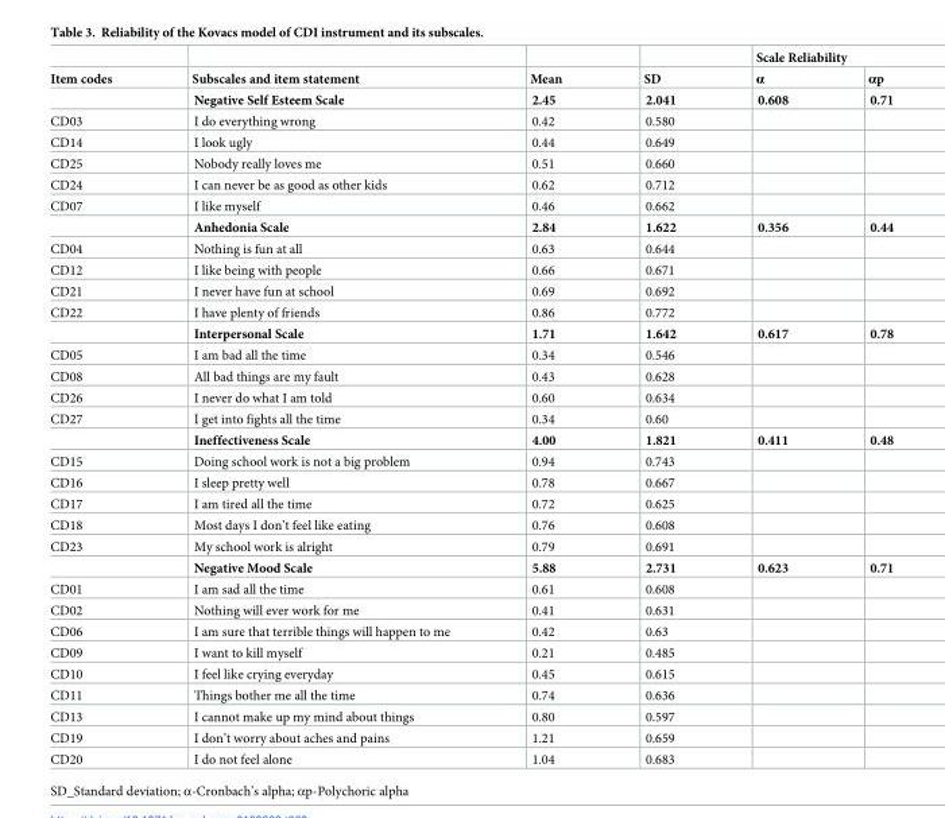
<table><thead><tr><td rowspan="2">Item codes</td><td rowspan="2">Subscales and item statement</td><td rowspan="2">Mean</td><td rowspan="2">SD</td><td colspan="2">Scale Reliability</td></tr><tr><td>α</td><td>αp</td></tr></thead><tbody><tr><td></td><td>Negative Self Esteem Scale</td><td>2.45</td><td>2.041</td><td>0.608</td><td>0.71</td></tr><tr><td>CD03</td><td>I do everything wrong</td><td>0.42</td><td>0.580</td><td></td><td></td></tr><tr><td>CD14</td><td>I look ugly</td><td>0.44</td><td>0.649</td><td></td><td></td></tr><tr><td>CD25</td><td>Nobody really loves me</td><td>0.51</td><td>0.660</td><td></td><td></td></tr><tr><td>CD24</td><td>I can never be as good as other kids</td><td>0.62</td><td>0.712</td><td></td><td></td></tr><tr><td rowspan="2">CD07</td><td>I like myself</td><td>0.46</td><td>0.662</td><td></td><td></td></tr><tr><td>Anhedonia Scale</td><td>2.84</td><td>1.622</td><td>0.356</td><td>0.44</td></tr><tr><td>CD04</td><td>Nothing is fun at all</td><td>0.63</td><td>0.644</td><td></td><td></td></tr><tr><td>CD12</td><td>I like being with people</td><td>0.66</td><td>0.671</td><td></td><td></td></tr><tr><td>CD21</td><td>I never have fun at school</td><td>0.69</td><td>0.692</td><td></td><td></td></tr><tr><td rowspan="2">CD22</td><td>I have plenty of friends</td><td>0.86</td><td>0.772</td><td></td><td></td></tr><tr><td>Interpersonal Scale</td><td>1.71</td><td>1.642</td><td>0.617</td><td>0.78</td></tr><tr><td>CD05</td><td>I am bad all the time</td><td>0.34</td><td>0.546</td><td></td><td></td></tr><tr><td>CD08</td><td>All bad things are my fault</td><td>0.43</td><td>0.628</td><td></td><td></td></tr><tr><td>CD26</td><td>I never do what I am told</td><td>0.60</td><td>0.634</td><td></td><td></td></tr><tr><td rowspan="2">CD27</td><td>I get into fights all the time</td><td>0.34</td><td>0.60</td><td></td><td></td></tr><tr><td>Ineffectiveness Scale</td><td>4.00</td><td>1.821</td><td>0.411</td><td>0.48</td></tr><tr><td>CD15</td><td>Doing school work is not a big problem</td><td>0.94</td><td>0.743</td><td></td><td></td></tr><tr><td>CD16</td><td>I sleep pretty well</td><td>0.78</td><td>0.667</td><td></td><td></td></tr><tr><td>CD17</td><td>I am tired all the time</td><td>0.72</td><td>0.625</td><td></td><td></td></tr><tr><td>CD18</td><td>Most days I don’t feel like eating</td><td>0.76</td><td>0.608</td><td></td><td></td></tr><tr><td rowspan="2">CD23</td><td>My school work is alright</td><td>0.79</td><td>0.691</td><td></td><td></td></tr><tr><td>Negative Mood Scale</td><td>5.88</td><td>2.731</td><td>0.623</td><td>0.71</td></tr><tr><td>CD01</td><td>I am sad all the time</td><td>0.61</td><td>0.608</td><td></td><td></td></tr><tr><td>CD02</td><td>Nothing will ever work for me</td><td>0.41</td><td>0.631</td><td></td><td></td></tr><tr><td>CD06</td><td>I am sure that terrible things will happen to me</td><td>0.42</td><td>0.63</td><td></td><td></td></tr><tr><td>CD09</td><td>I want to kill myself</td><td>0.21</td><td>0.485</td><td></td><td></td></tr><tr><td>CD10</td><td>I feel like crying everyday</td><td>0.45</td><td>0.615</td><td></td><td></td></tr><tr><td>CD11</td><td>Things bother me all the time</td><td>0.74</td><td>0.636</td><td></td><td></td></tr><tr><td>CD13</td><td>I cannot make up my mind about things</td><td>0.80</td><td>0.597</td><td></td><td></td></tr><tr><td>CD19</td><td>I don’t worry about aches and pains</td><td>1.21</td><td>0.659</td><td></td><td></td></tr><tr><td>CD20</td><td>I do not feel alone</td><td>1.04</td><td>0.683</td><td></td><td></td></tr></tbody></table>